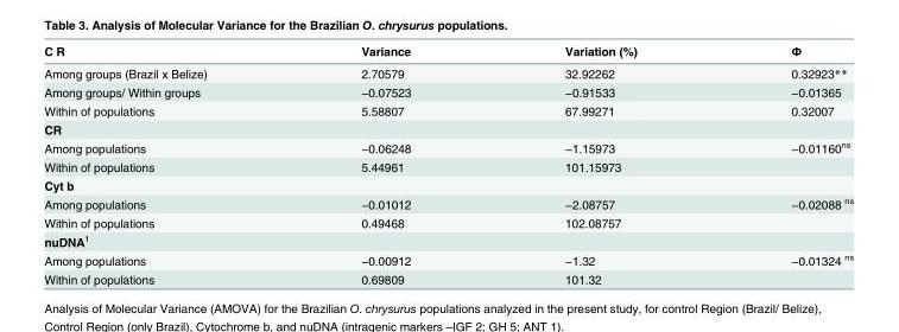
<table><thead><tr><td>C R</td><td>Variance</td><td>Variation (%)</td><td>Ф</td></tr></thead><tbody><tr><td>Among groups (Brazil x Belize)</td><td>2.70579</td><td>32.92262</td><td>0.32923**</td></tr><tr><td>Among groups/ Within groups</td><td>−0.07523</td><td>−0.91533</td><td>−0.01365</td></tr><tr><td>Within of populations</td><td>5.58807</td><td>67.99271</td><td>0.32007</td></tr><tr><td colspan="4">CR</td></tr><tr><td>Among populations</td><td>−0.06248</td><td>−1.15973</td><td>−0.01160<sup>ns</sup></td></tr><tr><td>Within of populations</td><td>5.44961</td><td>101.15973</td><td></td></tr><tr><td colspan="4">Cyt b</td></tr><tr><td>Among populations</td><td>−0.01012</td><td>−2.08757</td><td>−0.02088 <sup>ns</sup></td></tr><tr><td>Within of populations</td><td>0.49468</td><td>102.08757</td><td></td></tr><tr><td colspan="4">nuDNA<sup>1</sup></td></tr><tr><td>Among populations</td><td>−0.00912</td><td>−1.32</td><td>−0.01324 <sup>ns</sup></td></tr><tr><td>Within of populations</td><td>0.69809</td><td>101.32</td><td></td></tr></tbody></table>